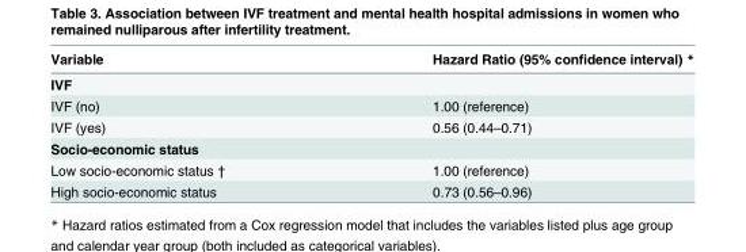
<table><thead><tr><td>Variable</td><td>Hazard Ratio (95% confidence interval) *</td></tr></thead><tbody><tr><td colspan="2">IVF</td></tr><tr><td>IVF (no)</td><td>1.00 (reference)</td></tr><tr><td>IVF (yes)</td><td>0.56 (0.44–0.71)</td></tr><tr><td colspan="2">Socio-economic status</td></tr><tr><td>Low socio-economic status †</td><td>1.00 (reference)</td></tr><tr><td>High socio-economic status</td><td>0.73 (0.56–0.96)</td></tr></tbody></table>